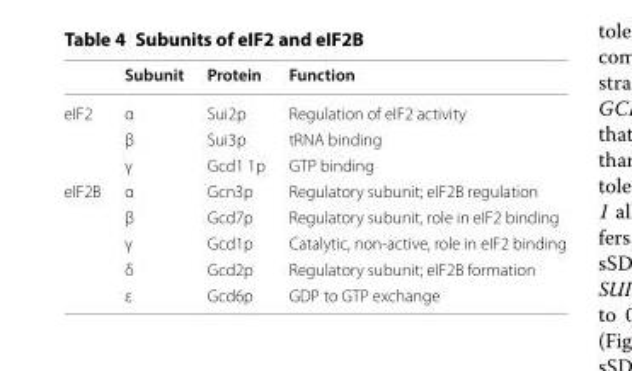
<table><thead><tr><td></td><td>Subunit</td><td>Protein</td><td>Function</td></tr></thead><tbody><tr><td rowspan="3">eIF2</td><td>α</td><td>Sui2p</td><td>Regulation of eIF2 activity</td></tr><tr><td>β</td><td>Sui3p</td><td>tRNA binding</td></tr><tr><td>γ</td><td>Gcd1 1p</td><td>GTP binding</td></tr><tr><td rowspan="5">eIF2B</td><td>α</td><td>Gcn3p</td><td>Regulatory subunit; eIF2B regulation</td></tr><tr><td>β</td><td>Gcd7p</td><td>Regulatory subunit, role in eIF2 binding</td></tr><tr><td>γ</td><td>Gcd1p</td><td>Catalytic, non‑active, role in eIF2 binding</td></tr><tr><td>δ</td><td>Gcd2p</td><td>Regulatory subunit; eIF2B formation</td></tr><tr><td>ε</td><td>Gcd6p</td><td>GDP to GTP exchange</td></tr></tbody></table>